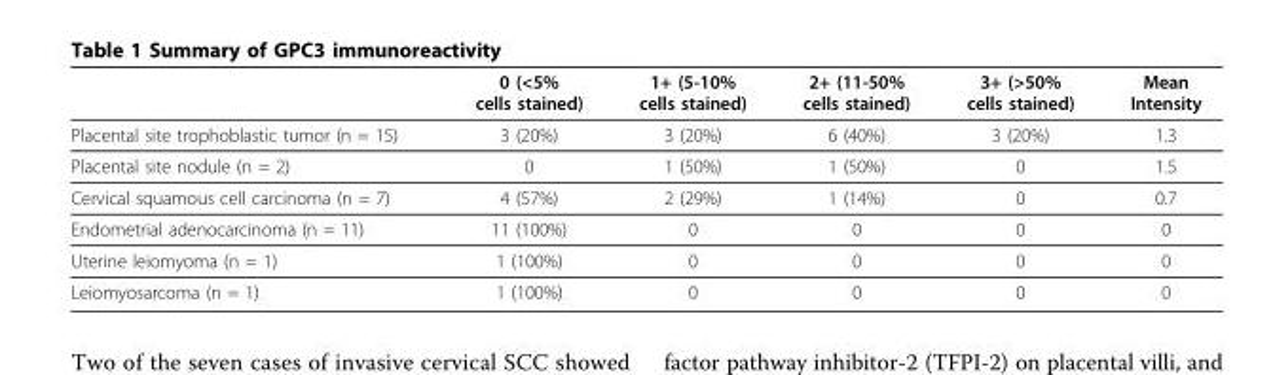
<table><thead><tr><td></td><td>0 (&lt;5% cells stained)</td><td>1+ (5-10% cells stained)</td><td>2+ (11-50% cells stained)</td><td>3+ (&gt;50% cells stained)</td><td>Mean Intensity</td></tr></thead><tbody><tr><td>Placental site trophoblastic tumor (n = 15)</td><td>3 (20%)</td><td>3 (20%)</td><td>6 (40%)</td><td>3 (20%)</td><td>1.3</td></tr><tr><td>Placental site nodule (n = 2)</td><td>0</td><td>1 (50%)</td><td>1 (50%)</td><td>0</td><td>1.5</td></tr><tr><td>Cervical squamous cell carcinoma (n = 7)</td><td>4 (57%)</td><td>2 (29%)</td><td>1 (14%)</td><td>0</td><td>0.7</td></tr><tr><td>Endometrial adenocarcinoma (n = 11)</td><td>11 (100%)</td><td>0</td><td>0</td><td>0</td><td>0</td></tr><tr><td>Uterine leiomyoma (n = 1)</td><td>1 (100%)</td><td>0</td><td>0</td><td>0</td><td>0</td></tr><tr><td>Leiomyosarcoma (n = 1)</td><td>1 (100%)</td><td>0</td><td>0</td><td>0</td><td>0</td></tr></tbody></table>